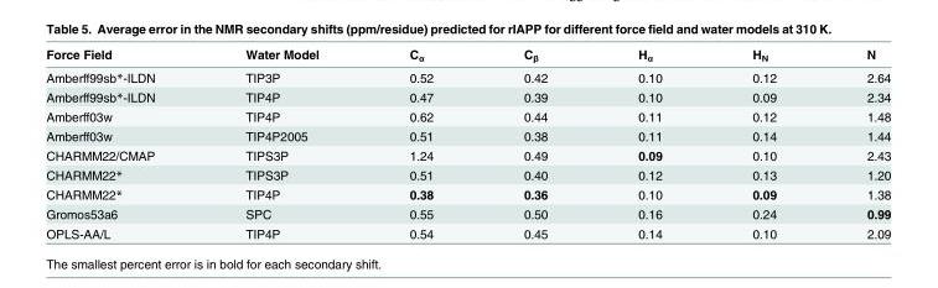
<table><thead><tr><td>Force Field</td><td>Water Model</td><td>C<sub>α</sub></td><td>C<sub>β</sub></td><td>H<sub>α</sub></td><td>H<sub>N</sub></td><td>N</td></tr></thead><tbody><tr><td>Amberff99sb*-ILDN</td><td>TIP3P</td><td>0.52</td><td>0.42</td><td>0.10</td><td>0.12</td><td>2.64</td></tr><tr><td>Amberff99sb*-ILDN</td><td>TIP4P</td><td>0.47</td><td>0.39</td><td>0.10</td><td>0.09</td><td>2.34</td></tr><tr><td>Amberff03w</td><td>TIP4P</td><td>0.62</td><td>0.44</td><td>0.11</td><td>0.12</td><td>1.48</td></tr><tr><td>Amberff03w</td><td>TIP4P2005</td><td>0.51</td><td>0.38</td><td>0.11</td><td>0.14</td><td>1.44</td></tr><tr><td>CHARMM22/CMAP</td><td>TIPS3P</td><td>1.24</td><td>0.49</td><td>0.09</td><td>0.10</td><td>2.43</td></tr><tr><td>CHARMM22*</td><td>TIPS3P</td><td>0.51</td><td>0.40</td><td>0.12</td><td>0.13</td><td>1.20</td></tr><tr><td>CHARMM22*</td><td>TIP4P</td><td>0.38</td><td>0.36</td><td>0.10</td><td>0.09</td><td>1.38</td></tr><tr><td>Gromos53a6</td><td>SPC</td><td>0.55</td><td>0.50</td><td>0.16</td><td>0.24</td><td>0.99</td></tr><tr><td>OPLS-AA/L</td><td>TIP4P</td><td>0.54</td><td>0.45</td><td>0.14</td><td>0.10</td><td>2.09</td></tr></tbody></table>